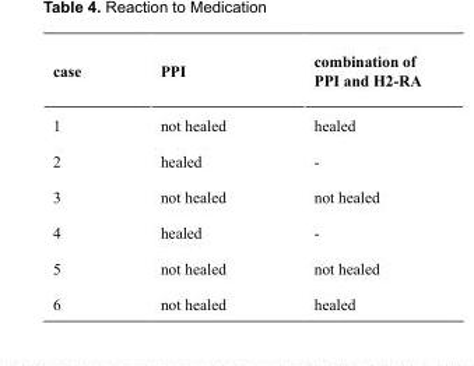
<table><thead><tr><td>case</td><td>PPI</td><td>combination of PPI and H2-RA</td></tr></thead><tbody><tr><td>1</td><td>not healed</td><td>healed</td></tr><tr><td>2</td><td>healed</td><td>-</td></tr><tr><td>3</td><td>not healed</td><td>not healed</td></tr><tr><td>4</td><td>healed</td><td>-</td></tr><tr><td>5</td><td>not healed</td><td>not healed</td></tr><tr><td>6</td><td>not healed</td><td>healed</td></tr></tbody></table>